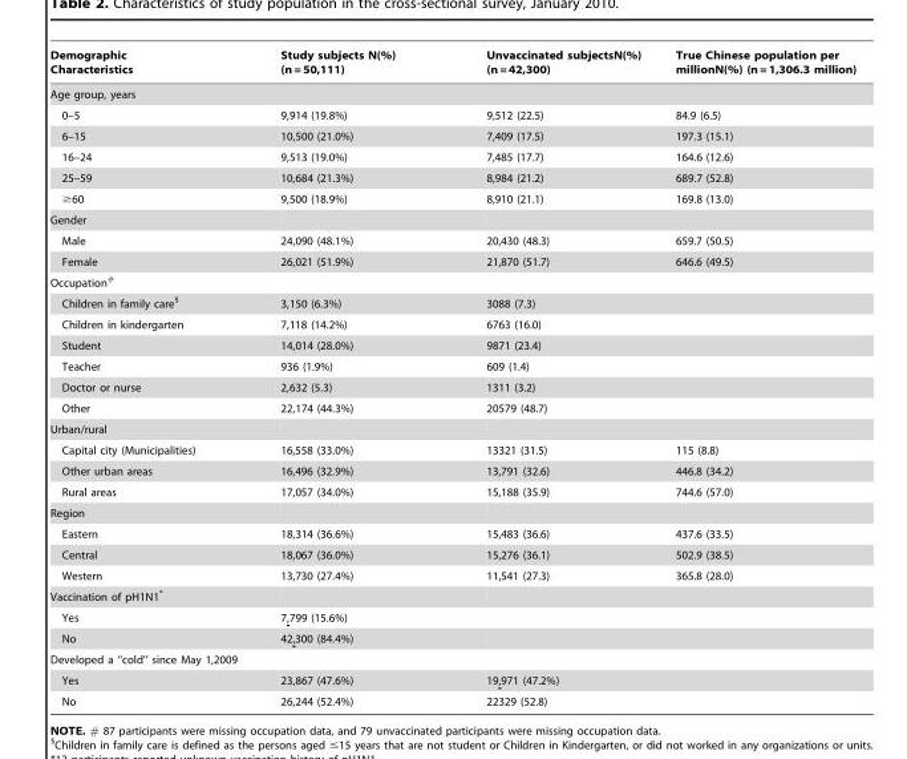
<table><thead><tr><td>Demographic Characteristics</td><td>Study subjects N(%) (n = 50,111)</td><td>Unvaccinated subjectsN(%) (n = 42,300)</td><td>True Chinese population per millionN(%) (n = 1,306.3 million)</td></tr></thead><tbody><tr><td colspan="4">Age group, years</td></tr><tr><td>0–5</td><td>9,914 (19.8%)</td><td>9,512 (22.5)</td><td>84.9 (6.5)</td></tr><tr><td>6–15</td><td>10,500 (21.0%)</td><td>7,409 (17.5)</td><td>197.3 (15.1)</td></tr><tr><td>16–24</td><td>9,513 (19.0%)</td><td>7,485 (17.7)</td><td>164.6 (12.6)</td></tr><tr><td>25–59</td><td>10,684 (21.3%)</td><td>8,984 (21.2)</td><td>689.7 (52.8)</td></tr><tr><td>≥60</td><td>9,500 (18.9%)</td><td>8,910 (21.1)</td><td>169.8 (13.0)</td></tr><tr><td colspan="4">Gender</td></tr><tr><td>Male</td><td>24,090 (48.1%)</td><td>20,430 (48.3)</td><td>659.7 (50.5)</td></tr><tr><td>Female</td><td>26,021 (51.9%)</td><td>21,870 (51.7)</td><td>646.6 (49.5)</td></tr><tr><td colspan="4">Occupation<sup>#</sup></td></tr><tr><td>Children in family care§</td><td>3,150 (6.3%)</td><td>3088 (7.3)</td><td></td></tr><tr><td>Children in kindergarten</td><td>7,118 (14.2%)</td><td>6763 (16.0)</td><td></td></tr><tr><td>Student</td><td>14,014 (28.0%)</td><td>9871 (23.4)</td><td></td></tr><tr><td>Teacher</td><td>936 (1.9%)</td><td>609 (1.4)</td><td></td></tr><tr><td>Doctor or nurse</td><td>2,632 (5.3)</td><td>1311 (3.2)</td><td></td></tr><tr><td>Other</td><td>22,174 (44.3%)</td><td>20579 (48.7)</td><td></td></tr><tr><td colspan="4">Urban/rural</td></tr><tr><td>Capital city (Municipalities)</td><td>16,558 (33.0%)</td><td>13321 (31.5)</td><td>115 (8.8)</td></tr><tr><td>Other urban areas</td><td>16,496 (32.9%)</td><td>13,791 (32.6)</td><td>446.8 (34.2)</td></tr><tr><td>Rural areas</td><td>17,057 (34.0%)</td><td>15,188 (35.9)</td><td>744.6 (57.0)</td></tr><tr><td colspan="4">Region</td></tr><tr><td>Eastern</td><td>18,314 (36.6%)</td><td>15,483 (36.6)</td><td>437.6 (33.5)</td></tr><tr><td>Central</td><td>18,067 (36.0%)</td><td>15,276 (36.1)</td><td>502.9 (38.5)</td></tr><tr><td>Western</td><td>13,730 (27.4%)</td><td>11,541 (27.3)</td><td>365.8 (28.0)</td></tr><tr><td colspan="4">Vaccination of pH1N1*</td></tr><tr><td>Yes</td><td>7,799 (15.6%)</td><td></td><td></td></tr><tr><td>No</td><td>42,300 (84.4%)</td><td></td><td></td></tr><tr><td colspan="4">Developed a ‘‘cold’’ since May 1,2009</td></tr><tr><td>Yes</td><td>23,867 (47.6%)</td><td>19,971 (47.2%)</td><td></td></tr><tr><td>No</td><td>26,244 (52.4%)</td><td>22329 (52.8)</td><td></td></tr></tbody></table>